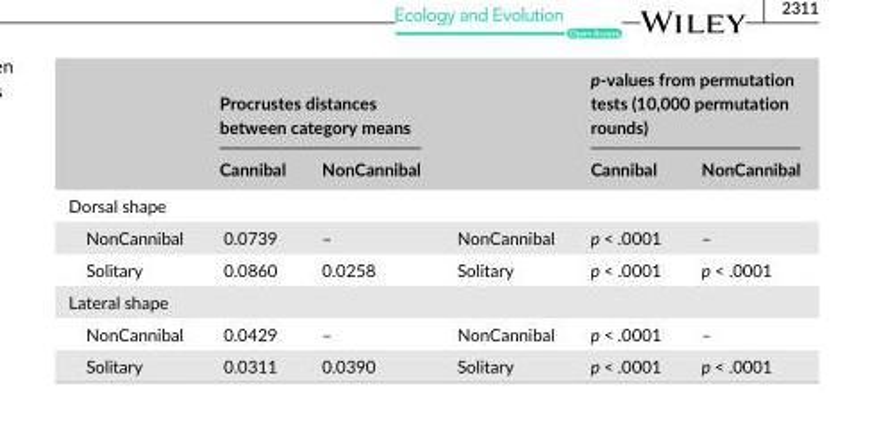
<table><thead><tr><td rowspan="2"></td><td colspan="2">Procrustes distances between category means</td><td rowspan="2"></td><td colspan="2">p- values from permutation tests (10,000 permutation rounds)</td></tr><tr><td>Cannibal</td><td>NonCannibal</td><td>Cannibal</td><td>NonCannibal</td></tr></thead><tbody><tr><td colspan="6">Dorsal shape</td></tr><tr><td>NonCannibal</td><td>0.0739</td><td>–</td><td>NonCannibal</td><td>p &lt; .0001</td><td>–</td></tr><tr><td>Solitary</td><td>0.0860</td><td>0.0258</td><td>Solitary</td><td>p &lt; .0001</td><td>p &lt; .0001</td></tr><tr><td colspan="6">Lateral shape</td></tr><tr><td>NonCannibal</td><td>0.0429</td><td>–</td><td>NonCannibal</td><td>p &lt; .0001</td><td>–</td></tr><tr><td>Solitary</td><td>0.0311</td><td>0.0390</td><td>Solitary</td><td>p &lt; .0001</td><td>p &lt; .0001</td></tr></tbody></table>